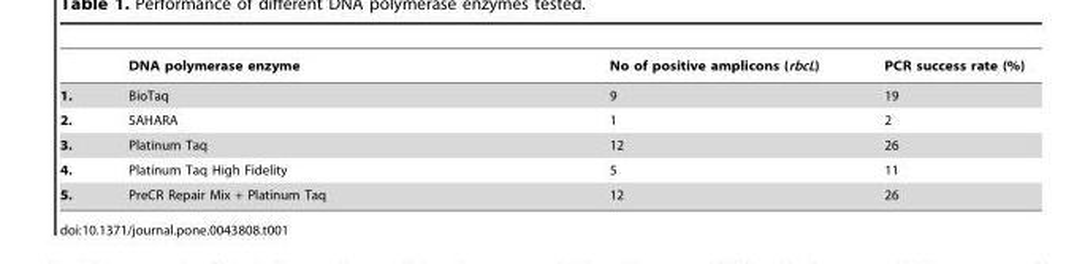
<table><thead><tr><td></td><td>DNA polymerase enzyme</td><td>No of positive amplicons (rbcL)</td><td>PCR success rate (%)</td></tr></thead><tbody><tr><td>1.</td><td>BioTaq</td><td>9</td><td>19</td></tr><tr><td>2.</td><td>SAHARA</td><td>1</td><td>2</td></tr><tr><td>3.</td><td>Platinum Taq</td><td>12</td><td>26</td></tr><tr><td>4.</td><td>Platinum Taq High Fidelity</td><td>5</td><td>11</td></tr><tr><td>5.</td><td>PreCR Repair Mix + Platinum Taq</td><td>12</td><td>26</td></tr></tbody></table>